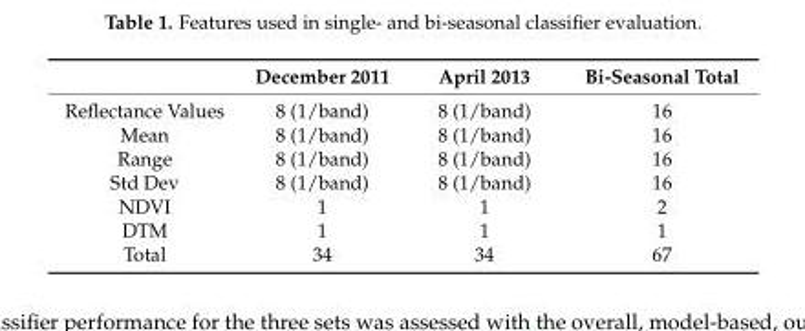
<table><thead><tr><td></td><td>December 2011</td><td>April 2013</td><td>Bi-Seasonal Total</td></tr></thead><tbody><tr><td>Reflectance Values</td><td>8 (1/band)</td><td>8 (1/band)</td><td>16</td></tr><tr><td>Mean</td><td>8 (1/band)</td><td>8 (1/band)</td><td>16</td></tr><tr><td>Range</td><td>8 (1/band)</td><td>8 (1/band)</td><td>16</td></tr><tr><td>Std Dev</td><td>8 (1/band)</td><td>8 (1/band)</td><td>16</td></tr><tr><td>NDVI</td><td>1</td><td>1</td><td>2</td></tr><tr><td>DTM</td><td>1</td><td>1</td><td>1</td></tr><tr><td>Total</td><td>34</td><td>34</td><td>67</td></tr></tbody></table>